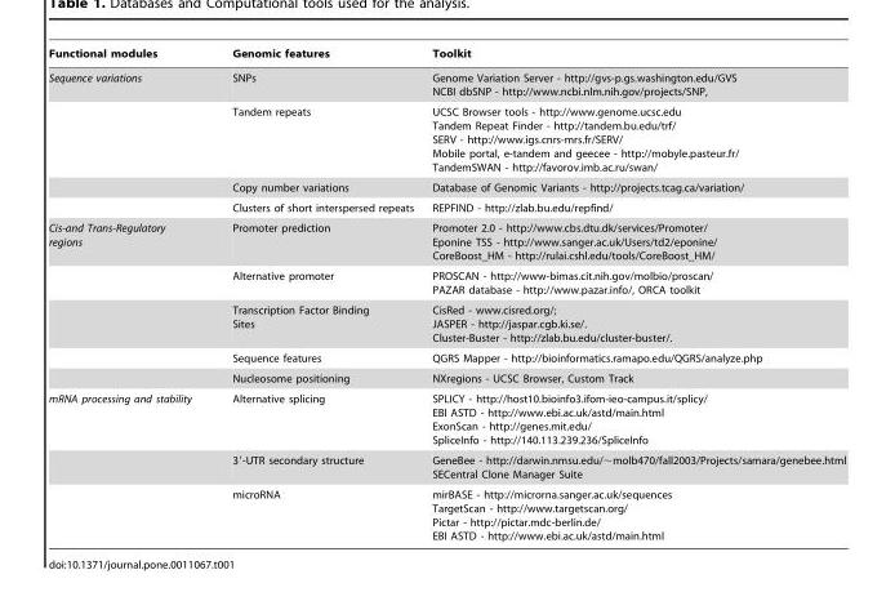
<table><thead><tr><td>Functional modules</td><td>Genomic features</td><td>Toolkit</td></tr></thead><tbody><tr><td rowspan="4">Sequence variations</td><td>SNPs</td><td>Genome Variation Server - http://gvs-p.gs.washington.edu/GVS NCBI dbSNP - http://www.ncbi.nlm.nih.gov/projects/SNP,</td></tr><tr><td>Tandem repeats</td><td>UCSC Browser tools - http://www.genome.ucsc.edu Tandem Repeat Finder - http://tandem.bu.edu/trf/ SERV - http://www.igs.cnrs-mrs.fr/SERV/ Mobile portal, e-tandem and geecee - http://mobyle.pasteur.fr/ TandemSWAN - http://favorov.imb.ac.ru/swan/</td></tr><tr><td>Copy number variations</td><td>Database of Genomic Variants - http://projects.tcag.ca/variation/</td></tr><tr><td>Clusters of short interspersed repeats</td><td>REPFIND - http://zlab.bu.edu/repfind/</td></tr><tr><td rowspan="5">Cis-and Trans-Regulatory regions</td><td>Promoter prediction</td><td>Promoter 2.0 - http://www.cbs.dtu.dk/services/Promoter/ Eponine TSS - http://www.sanger.ac.uk/Users/td2/eponine/ CoreBoost_HM - http://rulai.cshl.edu/tools/CoreBoost_HM/</td></tr><tr><td>Alternative promoter</td><td>PROSCAN - http://www-bimas.cit.nih.gov/molbio/proscan/ PAZAR database - http://www.pazar.info/, ORCA toolkit</td></tr><tr><td>Transcription Factor Binding Sites</td><td>CisRed - www.cisred.org/; JASPER - http://jaspar.cgb.ki.se/. Cluster-Buster - http://zlab.bu.edu/cluster-buster/.</td></tr><tr><td>Sequence features</td><td>QGRS Mapper - http://bioinformatics.ramapo.edu/QGRS/analyze.php</td></tr><tr><td>Nucleosome positioning</td><td>NXregions - UCSC Browser, Custom Track</td></tr><tr><td rowspan="3">mRNA processing and stability</td><td>Alternative splicing</td><td>SPLICY - http://host10.bioinfo3.ifom-ieo-campus.it/splicy/ EBI ASTD - http://www.ebi.ac.uk/astd/main.html ExonScan - http://genes.mit.edu/ SpliceInfo - http://140.113.239.236/SpliceInfo</td></tr><tr><td>3′-UTR secondary structure</td><td>GeneBee - http://darwin.nmsu.edu/~molb470/fall2003/Projects/samara/genebee.html SECentral Clone Manager Suite</td></tr><tr><td>microRNA</td><td>mirBASE - http://microrna.sanger.ac.uk/sequences TargetScan - http://www.targetscan.org/ Pictar - http://pictar.mdc-berlin.de/ EBI ASTD - http://www.ebi.ac.uk/astd/main.html</td></tr></tbody></table>